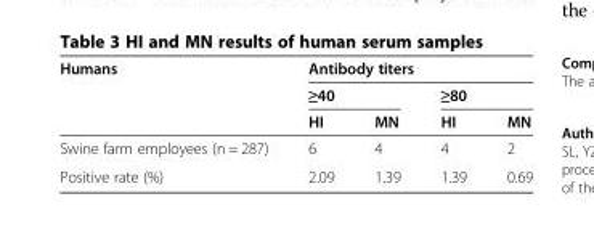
<table><thead><tr><td rowspan="3">Humans</td><td colspan="4">Antibody titers</td></tr><tr><td colspan="2">≥40</td><td colspan="2">≥80</td></tr><tr><td>HI</td><td>MN</td><td>HI</td><td>MN</td></tr></thead><tbody><tr><td>Swine farm employees (n = 287)</td><td>6</td><td>4</td><td>4</td><td>2</td></tr><tr><td>Positive rate (%)</td><td>2.09</td><td>1.39</td><td>1.39</td><td>0.69</td></tr></tbody></table>